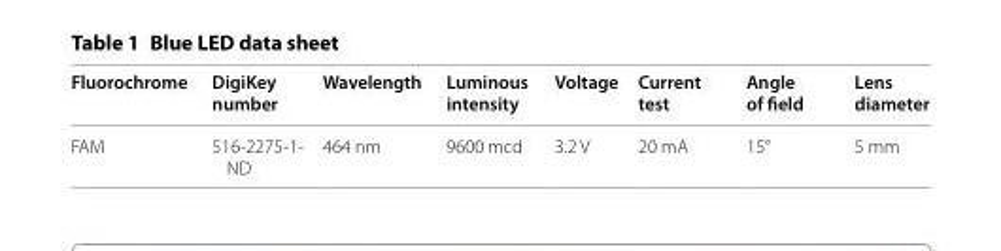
<table><thead><tr><td>Fluorochrome</td><td>DigiKey number</td><td>Wavelength</td><td>Luminous intensity</td><td>Voltage</td><td>Current test</td><td>Angle of field</td><td>Lens diameter</td></tr></thead><tbody><tr><td>FAM</td><td>516‑2275‑1‑ ND</td><td>464 nm</td><td>9600 mcd</td><td>3.2 V</td><td>20 mA</td><td>15°</td><td>5 mm</td></tr></tbody></table>